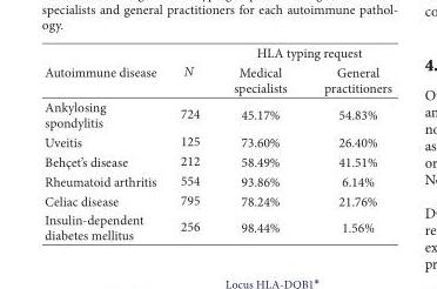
<table><thead><tr><td rowspan="2">Autoimmune disease</td><td rowspan="2">N</td><td colspan="2">HLA typing request</td></tr><tr><td>Medical specialists</td><td>General practitioners</td></tr></thead><tbody><tr><td>Ankylosing spondylitis</td><td>724</td><td>45.17%</td><td>54.83%</td></tr><tr><td>Uveitis</td><td>125</td><td>73.60%</td><td>26.40%</td></tr><tr><td>Behçet’s disease</td><td>212</td><td>58.49%</td><td>41.51%</td></tr><tr><td>Rheumatoid arthritis</td><td>554</td><td>93.86%</td><td>6.14%</td></tr><tr><td>Celiac disease</td><td>795</td><td>78.24%</td><td>21.76%</td></tr><tr><td>Insulin-dependent diabetes mellitus</td><td>256</td><td>98.44%</td><td>1.56%</td></tr></tbody></table>